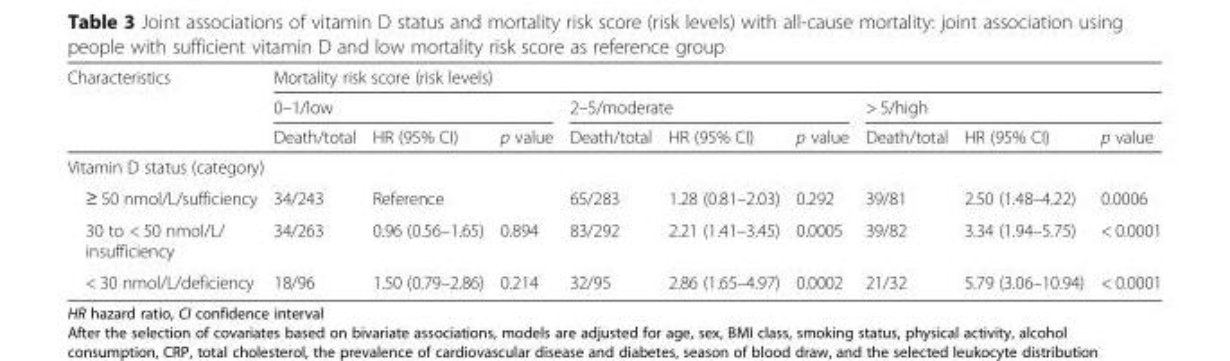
<table><thead><tr><td rowspan="3">Characteristics</td><td colspan="9">Mortality risk score (risk levels)</td></tr><tr><td colspan="3">0–1/low</td><td colspan="3">2–5/moderate</td><td colspan="3">&gt; 5/high</td></tr><tr><td>Death/total</td><td>HR (95% CI)</td><td>p value</td><td>Death/total</td><td>HR (95% CI)</td><td>p value</td><td>Death/total</td><td>HR (95% CI)</td><td>p value</td></tr></thead><tbody><tr><td colspan="10">Vitamin D status (category)</td></tr><tr><td>≥ 50 nmol/L/sufficiency</td><td>34/243</td><td>Reference</td><td></td><td>65/283</td><td>1.28 (0.81–2.03)</td><td>0.292</td><td>39/81</td><td>2.50 (1.48–4.22)</td><td>0.0006</td></tr><tr><td>30 to &lt; 50 nmol/L/ insufficiency</td><td>34/263</td><td>0.96 (0.56–1.65)</td><td>0.894</td><td>83/292</td><td>2.21 (1.41–3.45)</td><td>0.0005</td><td>39/82</td><td>3.34 (1.94–5.75)</td><td>&lt; 0.0001</td></tr><tr><td>&lt; 30 nmol/L/deficiency</td><td>18/96</td><td>1.50 (0.79–2.86)</td><td>0.214</td><td>32/95</td><td>2.86 (1.65–4.97)</td><td>0.0002</td><td>21/32</td><td>5.79 (3.06–10.94)</td><td>&lt; 0.0001</td></tr></tbody></table>